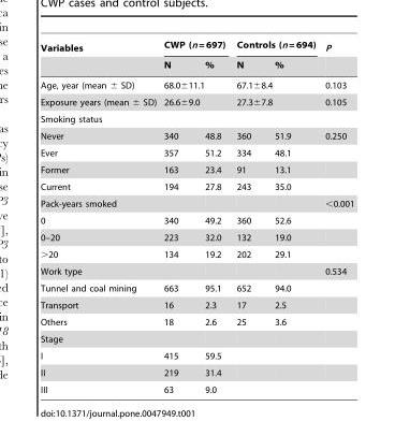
<table><thead><tr><td rowspan="2">Variables</td><td colspan="2">CWP (n = 697)</td><td colspan="2">Controls (n = 694)</td><td rowspan="2">P</td></tr><tr><td>N</td><td>%</td><td>N</td><td>%</td></tr></thead><tbody><tr><td>Age, year (mean ± SD)</td><td colspan="2">68.0±11.1</td><td colspan="2">67.1±8.4</td><td>0.103</td></tr><tr><td>Exposure years (mean ± SD)</td><td colspan="2">26.6±9.0</td><td colspan="2">27.3±7.8</td><td>0.105</td></tr><tr><td colspan="6">Smoking status</td></tr><tr><td>Never</td><td>340</td><td>48.8</td><td>360</td><td>51.9</td><td>0.250</td></tr><tr><td>Ever</td><td>357</td><td>51.2</td><td>334</td><td>48.1</td><td></td></tr><tr><td>Former</td><td>163</td><td>23.4</td><td>91</td><td>13.1</td><td></td></tr><tr><td>Current</td><td>194</td><td>27.8</td><td>243</td><td>35.0</td><td></td></tr><tr><td>Pack-years smoked</td><td></td><td></td><td></td><td></td><td>&lt;0.001</td></tr><tr><td>0</td><td>340</td><td>49.2</td><td>360</td><td>52.6</td><td></td></tr><tr><td>0–20</td><td>223</td><td>32.0</td><td>132</td><td>19.0</td><td></td></tr><tr><td>&gt;20</td><td>134</td><td>19.2</td><td>202</td><td>29.1</td><td></td></tr><tr><td>Work type</td><td></td><td></td><td></td><td></td><td>0.534</td></tr><tr><td>Tunnel and coal mining</td><td>663</td><td>95.1</td><td>652</td><td>94.0</td><td></td></tr><tr><td>Transport</td><td>16</td><td>2.3</td><td>17</td><td>2.5</td><td></td></tr><tr><td>Others</td><td>18</td><td>2.6</td><td>25</td><td>3.6</td><td></td></tr><tr><td colspan="6">Stage</td></tr><tr><td>I</td><td>415</td><td>59.5</td><td></td><td></td><td></td></tr><tr><td>II</td><td>219</td><td>31.4</td><td></td><td></td><td></td></tr><tr><td>III</td><td>63</td><td>9.0</td><td></td><td></td><td></td></tr></tbody></table>